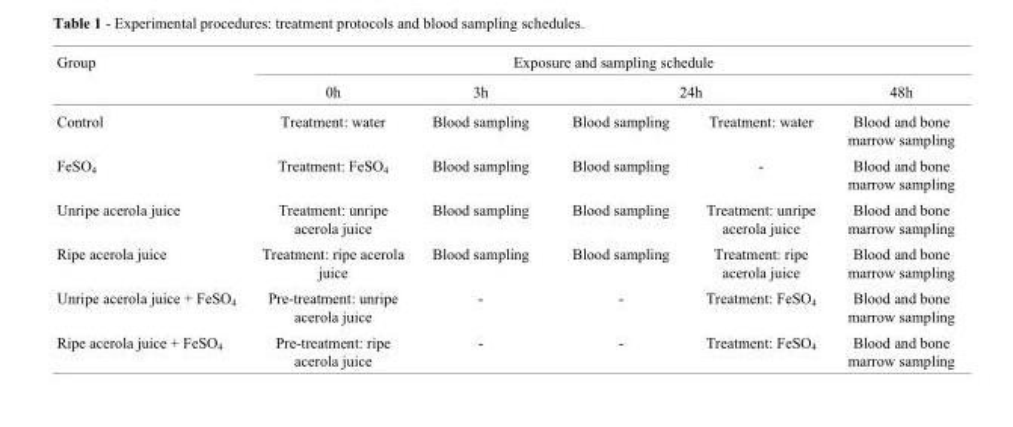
<table><thead><tr><td rowspan="3">Group Control</td><td colspan="5">Exposure and sampling schedule</td></tr><tr><td rowspan="2">0h Treatment: water</td><td rowspan="2">3h Blood sampling</td><td colspan="2">24h</td><td rowspan="2">48h Blood and bone marrow sampling</td></tr><tr><td>Blood sampling</td><td>Treatment: water</td></tr></thead><tbody><tr><td>FeSO<sub>4</sub></td><td>Treatment: FeSO<sub>4</sub></td><td>Blood sampling</td><td>Blood sampling</td><td>-</td><td>Blood and bone marrow sampling</td></tr><tr><td>Unripe acerola juice</td><td>Treatment: unripe acerola juice</td><td>Blood sampling</td><td>Blood sampling</td><td>Treatment: unripe acerola juice</td><td>Blood and bone marrow sampling</td></tr><tr><td>Ripe acerola juice</td><td>Treatment: ripe acerola juice</td><td>Blood sampling</td><td>Blood sampling</td><td>Treatment: ripe acerola juice</td><td>Blood and bone marrow sampling</td></tr><tr><td>Unripe acerola juice + FeSO<sub>4</sub></td><td>Pre-treatment: unripe acerola juice</td><td>-</td><td>-</td><td>Treatment: FeSO<sub>4</sub></td><td>Blood and bone marrow sampling</td></tr><tr><td>Ripe acerola juice + FeSO<sub>4</sub></td><td>Pre-treatment: ripe acerola juice</td><td>-</td><td>-</td><td>Treatment: FeSO<sub>4</sub></td><td>Blood and bone marrow sampling</td></tr></tbody></table>